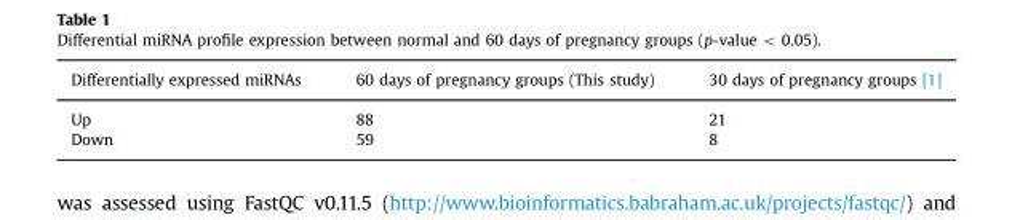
<table><thead><tr><td>Differentially expressed miRNAs</td><td>60 days of pregnancy groups (This study)</td><td>30 days of pregnancy groups [1]</td></tr></thead><tbody><tr><td>Up</td><td>88</td><td>21</td></tr><tr><td>Down</td><td>59</td><td>8</td></tr></tbody></table>